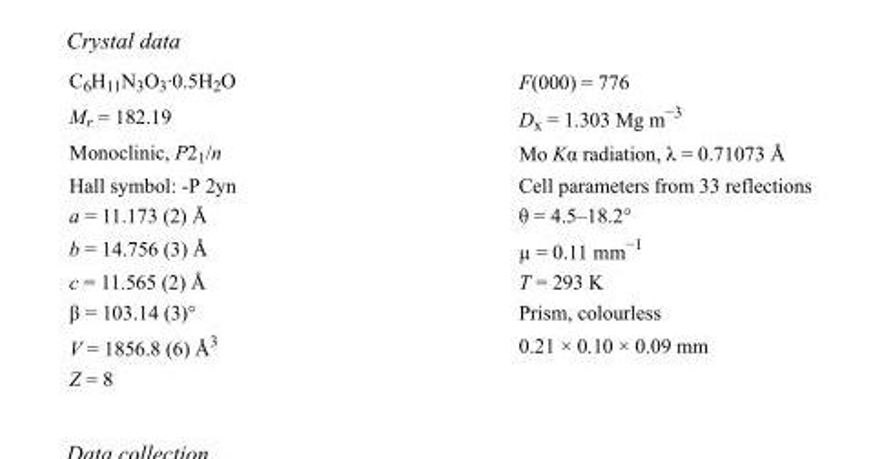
<table><tbody><tr><td>C<sub>6</sub>H<sub>11</sub>N<sub>3</sub>O<sub>3</sub>·0.5H<sub>2</sub>O</td><td>F(000) = 776</td></tr><tr><td>M<sub>r</sub> = 182.19</td><td>D<sub>x</sub> = 1.303 Mg m<sup>−3</sup></td></tr><tr><td>Monoclinic, P2<sub>1</sub>/n</td><td>Mo Kα radiation, λ = 0.71073 Å</td></tr><tr><td>Hall symbol: -P 2yn</td><td>Cell parameters from 33 reflections</td></tr><tr><td>a = 11.173 (2) Å</td><td>θ = 4.5–18.2°</td></tr><tr><td>b = 14.756 (3) Å</td><td>µ = 0.11 mm<sup>−1</sup></td></tr><tr><td>c = 11.565 (2) Å</td><td>T = 293 K</td></tr><tr><td>β = 103.14 (3)°</td><td>Prism, colourless</td></tr><tr><td>V = 1856.8 (6) Å<sup>3</sup></td><td>0.21 × 0.10 × 0.09 mm</td></tr><tr><td>Z = 8</td><td></td></tr></tbody></table>